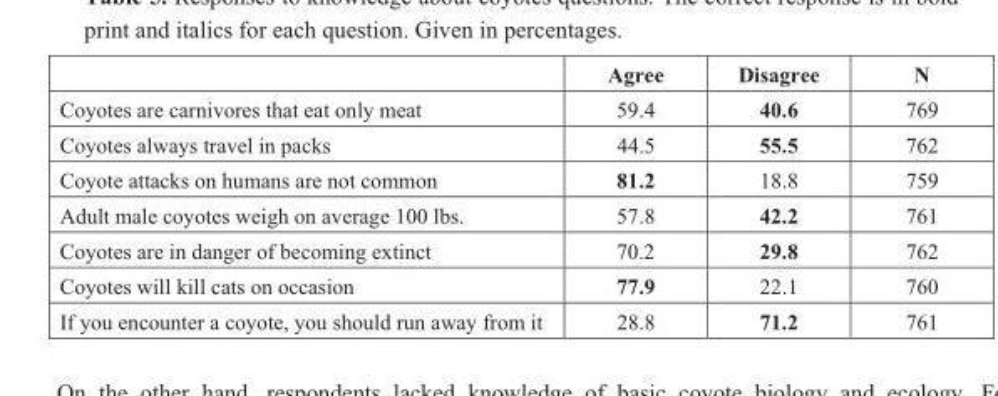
<table><thead><tr><td></td><td>Agree</td><td>Disagree</td><td>N</td></tr></thead><tbody><tr><td>Coyotes are carnivores that eat only meat</td><td>59.4</td><td>40.6</td><td>769</td></tr><tr><td>Coyotes always travel in packs</td><td>44.5</td><td>55.5</td><td>762</td></tr><tr><td>Coyote attacks on humans are not common</td><td>81.2</td><td>18.8</td><td>759</td></tr><tr><td>Adult male coyotes weigh on average 100 lbs.</td><td>57.8</td><td>42.2</td><td>761</td></tr><tr><td>Coyotes are in danger of becoming extinct</td><td>70.2</td><td>29.8</td><td>762</td></tr><tr><td>Coyotes will kill cats on occasion</td><td>77.9</td><td>22.1</td><td>760</td></tr><tr><td>If you encounter a coyote, you should run away from it</td><td>28.8</td><td>71.2</td><td>761</td></tr></tbody></table>